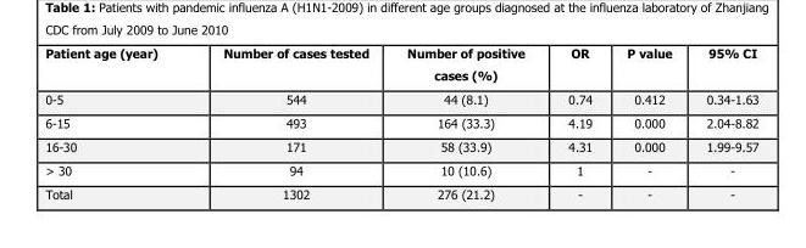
<table><thead><tr><td>Patient age (year)</td><td>Number of cases tested</td><td>Number of positive cases (%)</td><td>OR</td><td>P value</td><td>95% CI</td></tr></thead><tbody><tr><td>0-5</td><td>544</td><td>44 (8.1)</td><td>0.74</td><td>0.412</td><td>0.34-1.63</td></tr><tr><td>6-15</td><td>493</td><td>164 (33.3)</td><td>4.19</td><td>0.000</td><td>2.04-8.82</td></tr><tr><td>16-30</td><td>171</td><td>58 (33.9)</td><td>4.31</td><td>0.000</td><td>1.99-9.57</td></tr><tr><td>&gt; 30</td><td>94</td><td>10 (10.6)</td><td>1</td><td>-</td><td>-</td></tr><tr><td>Total</td><td>1302</td><td>276 (21.2)</td><td>-</td><td>-</td><td>-</td></tr></tbody></table>